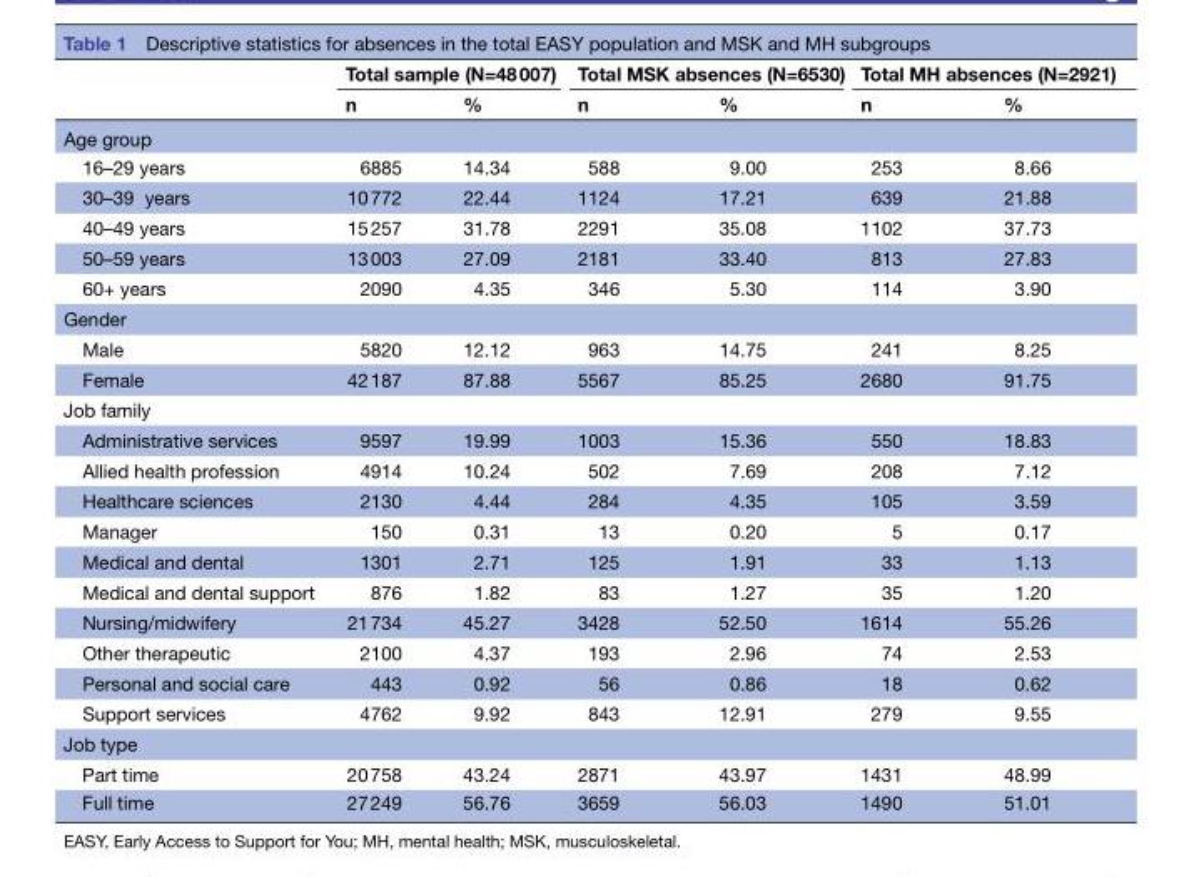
<table><thead><tr><td rowspan="2"></td><td colspan="2">Total sample (N=48 007)</td><td colspan="2">Total MSK absences (N=6530)</td><td colspan="2">Total MH absences (N=2921)</td></tr><tr><td>n</td><td>%</td><td>n</td><td>%</td><td>n</td><td>%</td></tr></thead><tbody><tr><td colspan="7">Age group</td></tr><tr><td>16–29 years</td><td>6885</td><td>14.34</td><td>588</td><td>9.00</td><td>253</td><td>8.66</td></tr><tr><td>30–39 years</td><td>10 772</td><td>22.44</td><td>1124</td><td>17.21</td><td>639</td><td>21.88</td></tr><tr><td>40–49 years</td><td>15 257</td><td>31.78</td><td>2291</td><td>35.08</td><td>1102</td><td>37.73</td></tr><tr><td>50–59 years</td><td>13 003</td><td>27.09</td><td>2181</td><td>33.40</td><td>813</td><td>27.83</td></tr><tr><td>60+ years</td><td>2090</td><td>4.35</td><td>346</td><td>5.30</td><td>114</td><td>3.90</td></tr><tr><td colspan="7">Gender</td></tr><tr><td>Male</td><td>5820</td><td>12.12</td><td>963</td><td>14.75</td><td>241</td><td>8.25</td></tr><tr><td>Female</td><td>42 187</td><td>87.88</td><td>5567</td><td>85.25</td><td>2680</td><td>91.75</td></tr><tr><td colspan="7">Job family</td></tr><tr><td>Administrative services</td><td>9597</td><td>19.99</td><td>1003</td><td>15.36</td><td>550</td><td>18.83</td></tr><tr><td>Allied health profession</td><td>4914</td><td>10.24</td><td>502</td><td>7.69</td><td>208</td><td>7.12</td></tr><tr><td>Healthcare sciences</td><td>2130</td><td>4.44</td><td>284</td><td>4.35</td><td>105</td><td>3.59</td></tr><tr><td>Manager</td><td>150</td><td>0.31</td><td>13</td><td>0.20</td><td>5</td><td>0.17</td></tr><tr><td>Medical and dental</td><td>1301</td><td>2.71</td><td>125</td><td>1.91</td><td>33</td><td>1.13</td></tr><tr><td>Medical and dental support</td><td>876</td><td>1.82</td><td>83</td><td>1.27</td><td>35</td><td>1.20</td></tr><tr><td>Nursing/midwifery</td><td>21 734</td><td>45.27</td><td>3428</td><td>52.50</td><td>1614</td><td>55.26</td></tr><tr><td>Other therapeutic</td><td>2100</td><td>4.37</td><td>193</td><td>2.96</td><td>74</td><td>2.53</td></tr><tr><td>Personal and social care</td><td>443</td><td>0.92</td><td>56</td><td>0.86</td><td>18</td><td>0.62</td></tr><tr><td>Support services</td><td>4762</td><td>9.92</td><td>843</td><td>12.91</td><td>279</td><td>9.55</td></tr><tr><td colspan="7">Job type</td></tr><tr><td>Part time</td><td>20 758</td><td>43.24</td><td>2871</td><td>43.97</td><td>1431</td><td>48.99</td></tr><tr><td>Full time</td><td>27 249</td><td>56.76</td><td>3659</td><td>56.03</td><td>1490</td><td>51.01</td></tr></tbody></table>